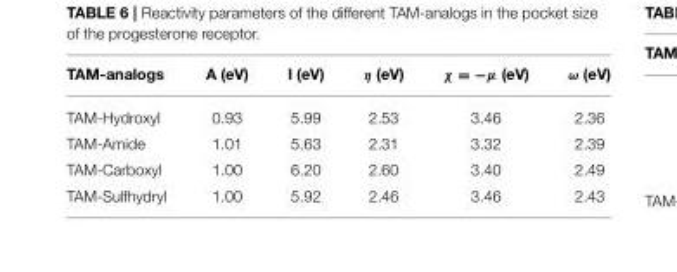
<table><thead><tr><td>TAM-analogs</td><td>A (eV)</td><td>I (eV)</td><td>η (eV)</td><td>χ = −µ (eV)</td><td>ω (eV)</td></tr></thead><tbody><tr><td>TAM-Hydroxyl</td><td>0.93</td><td>5.99</td><td>2.53</td><td>3.46</td><td>2.36</td></tr><tr><td>TAM-Amide</td><td>1.01</td><td>5.63</td><td>2.31</td><td>3.32</td><td>2.39</td></tr><tr><td>TAM-Carboxyl</td><td>1.00</td><td>6.20</td><td>2.60</td><td>3.40</td><td>2.49</td></tr><tr><td>TAM-Sulfhydryl</td><td>1.00</td><td>5.92</td><td>2.46</td><td>3.46</td><td>2.43</td></tr></tbody></table>